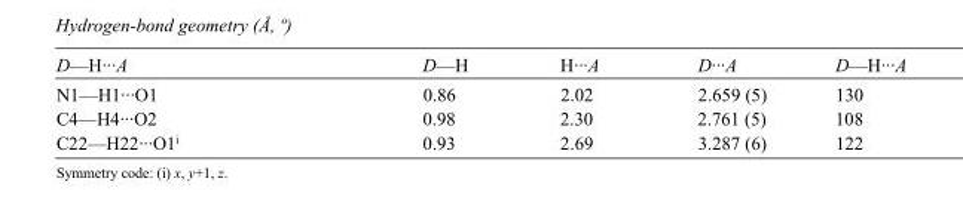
<table><tbody><tr><td>D—H···A</td><td>D—H</td><td>H···A</td><td>D···A</td><td>D—H···A</td></tr><tr><td>N1—H1···O1</td><td>0.86</td><td>2.02</td><td>2.659 (5)</td><td>130</td></tr><tr><td>C4—H4···O2</td><td>0.98</td><td>2.30</td><td>2.761 (5)</td><td>108</td></tr><tr><td>C22—H22···O1<sup>i</sup></td><td>0.93</td><td>2.69</td><td>3.287 (6)</td><td>122</td></tr></tbody></table>